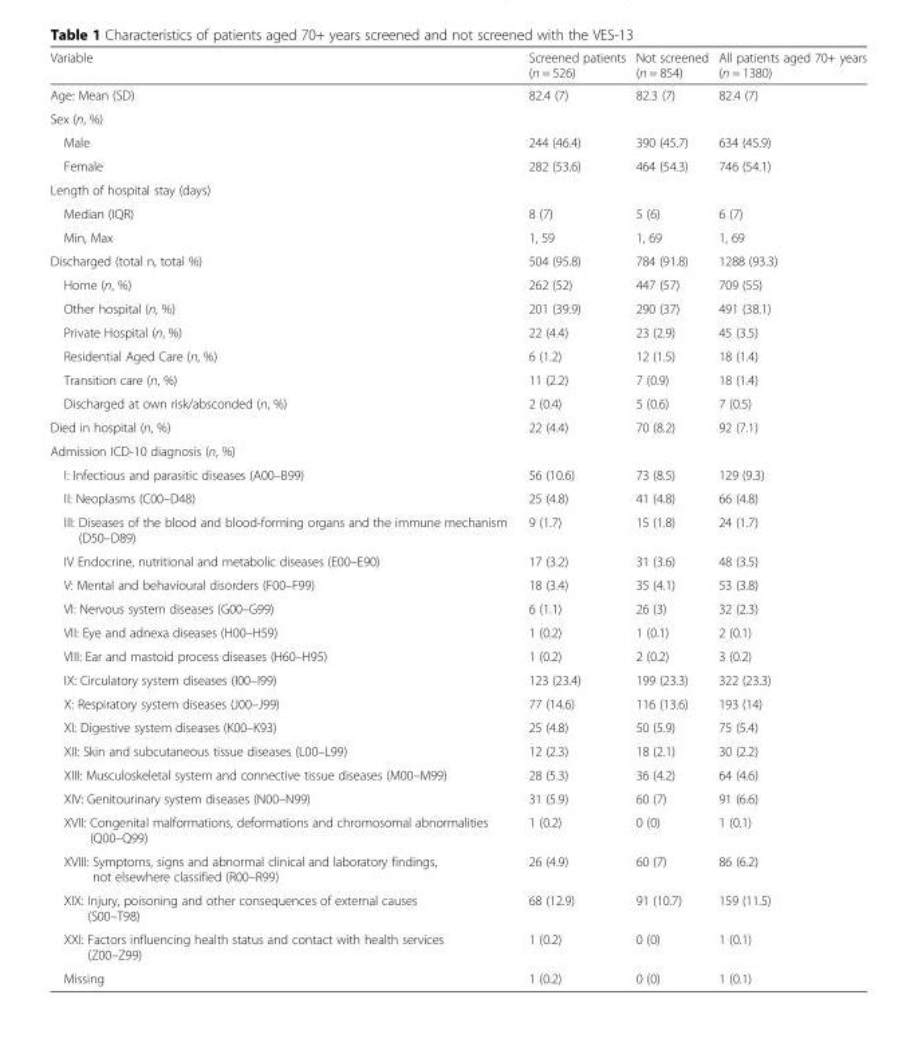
<table><thead><tr><td>Variable</td><td>Screened patients (n = 526)</td><td>Not screened (n = 854)</td><td>All patients aged 70+ years (n = 1380)</td></tr></thead><tbody><tr><td>Age: Mean (SD)</td><td>82.4 (7)</td><td>82.3 (7)</td><td>82.4 (7)</td></tr><tr><td colspan="4">Sex (n, %)</td></tr><tr><td>Male</td><td>244 (46.4)</td><td>390 (45.7)</td><td>634 (45.9)</td></tr><tr><td>Female</td><td>282 (53.6)</td><td>464 (54.3)</td><td>746 (54.1)</td></tr><tr><td colspan="4">Length of hospital stay (days)</td></tr><tr><td>Median (IQR)</td><td>8 (7)</td><td>5 (6)</td><td>6 (7)</td></tr><tr><td>Min, Max</td><td>1, 59</td><td>1, 69</td><td>1, 69</td></tr><tr><td>Discharged (total n, total %)</td><td>504 (95.8)</td><td>784 (91.8)</td><td>1288 (93.3)</td></tr><tr><td>Home (n, %)</td><td>262 (52)</td><td>447 (57)</td><td>709 (55)</td></tr><tr><td>Other hospital (n, %)</td><td>201 (39.9)</td><td>290 (37)</td><td>491 (38.1)</td></tr><tr><td>Private Hospital (n, %)</td><td>22 (4.4)</td><td>23 (2.9)</td><td>45 (3.5)</td></tr><tr><td>Residential Aged Care (n, %)</td><td>6 (1.2)</td><td>12 (1.5)</td><td>18 (1.4)</td></tr><tr><td>Transition care (n, %)</td><td>11 (2.2)</td><td>7 (0.9)</td><td>18 (1.4)</td></tr><tr><td>Discharged at own risk/absconded (n, %)</td><td>2 (0.4)</td><td>5 (0.6)</td><td>7 (0.5)</td></tr><tr><td>Died in hospital (n, %)</td><td>22 (4.4)</td><td>70 (8.2)</td><td>92 (7.1)</td></tr><tr><td colspan="4">Admission ICD-10 diagnosis (n, %)</td></tr><tr><td>I: Infectious and parasitic diseases (A00–B99)</td><td>56 (10.6)</td><td>73 (8.5)</td><td>129 (9.3)</td></tr><tr><td>II: Neoplasms (C00–D48)</td><td>25 (4.8)</td><td>41 (4.8)</td><td>66 (4.8)</td></tr><tr><td>III: Diseases of the blood and blood-forming organs and the immune mechanism (D50–D89)</td><td>9 (1.7)</td><td>15 (1.8)</td><td>24 (1.7)</td></tr><tr><td>IV Endocrine, nutritional and metabolic diseases (E00–E90)</td><td>17 (3.2)</td><td>31 (3.6)</td><td>48 (3.5)</td></tr><tr><td>V: Mental and behavioural disorders (F00–F99)</td><td>18 (3.4)</td><td>35 (4.1)</td><td>53 (3.8)</td></tr><tr><td>VI: Nervous system diseases (G00–G99)</td><td>6 (1.1)</td><td>26 (3)</td><td>32 (2.3)</td></tr><tr><td>VII: Eye and adnexa diseases (H00–H59)</td><td>1 (0.2)</td><td>1 (0.1)</td><td>2 (0.1)</td></tr><tr><td>VIII: Ear and mastoid process diseases (H60–H95)</td><td>1 (0.2)</td><td>2 (0.2)</td><td>3 (0.2)</td></tr><tr><td>IX: Circulatory system diseases (I00–I99)</td><td>123 (23.4)</td><td>199 (23.3)</td><td>322 (23.3)</td></tr><tr><td>X: Respiratory system diseases (J00–J99)</td><td>77 (14.6)</td><td>116 (13.6)</td><td>193 (14)</td></tr><tr><td>XI: Digestive system diseases (K00–K93)</td><td>25 (4.8)</td><td>50 (5.9)</td><td>75 (5.4)</td></tr><tr><td>XII: Skin and subcutaneous tissue diseases (L00–L99)</td><td>12 (2.3)</td><td>18 (2.1)</td><td>30 (2.2)</td></tr><tr><td>XIII: Musculoskeletal system and connective tissue diseases (M00–M99)</td><td>28 (5.3)</td><td>36 (4.2)</td><td>64 (4.6)</td></tr><tr><td>XIV: Genitourinary system diseases (N00–N99)</td><td>31 (5.9)</td><td>60 (7)</td><td>91 (6.6)</td></tr><tr><td>XVII: Congenital malformations, deformations and chromosomal abnormalities (Q00–Q99)</td><td>1 (0.2)</td><td>0 (0)</td><td>1 (0.1)</td></tr><tr><td>XVIII: Symptoms, signs and abnormal clinical and laboratory findings, not elsewhere classified (R00–R99)</td><td>26 (4.9)</td><td>60 (7)</td><td>86 (6.2)</td></tr><tr><td>XIX: Injury, poisoning and other consequences of external causes (S00–T98)</td><td>68 (12.9)</td><td>91 (10.7)</td><td>159 (11.5)</td></tr><tr><td>XXI: Factors influencing health status and contact with health services (Z00–Z99)</td><td>1 (0.2)</td><td>0 (0)</td><td>1 (0.1)</td></tr><tr><td>Missing</td><td>1 (0.2)</td><td>0 (0)</td><td>1 (0.1)</td></tr></tbody></table>